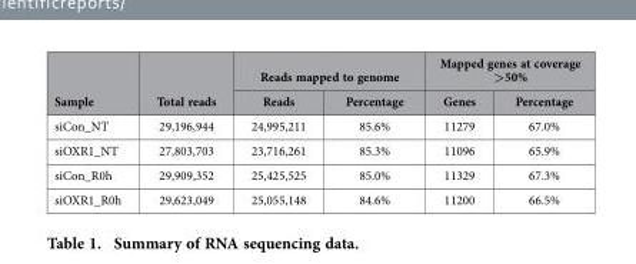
<table><thead><tr><td rowspan="2">Sample</td><td rowspan="2">Total reads</td><td colspan="2">Reads mapped to genome</td><td colspan="2">Mapped genes at coverage &gt;50%</td></tr><tr><td>Reads</td><td>Percentage</td><td>Genes</td><td>Percentage</td></tr></thead><tbody><tr><td>siCon_NT</td><td>29,196,944</td><td>24,995,211</td><td>85.6%</td><td>11279</td><td>67.0%</td></tr><tr><td>siOXR1_NT</td><td>27,803,703</td><td>23,716,261</td><td>85.3%</td><td>11096</td><td>65.9%</td></tr><tr><td>siCon_R0h</td><td>29,909,352</td><td>25,425,525</td><td>85.0%</td><td>11329</td><td>67.3%</td></tr><tr><td>siOXR1_R0h</td><td>29,623,049</td><td>25,055,148</td><td>84.6%</td><td>11200</td><td>66.5%</td></tr></tbody></table>